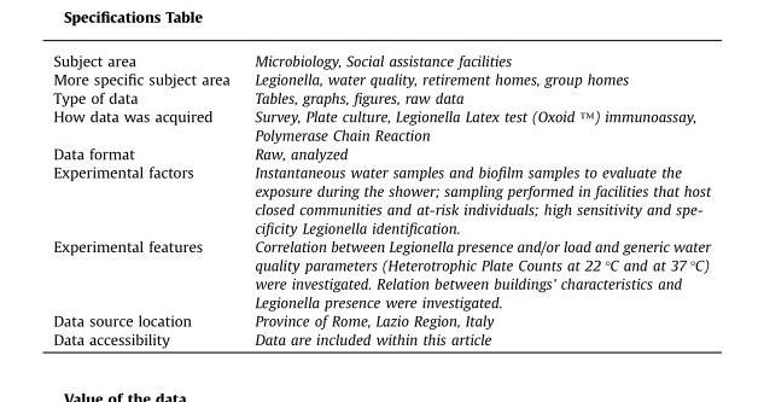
<table><tbody><tr><td>Subject area</td><td>Microbiology, Social assistance facilities</td></tr><tr><td>More specific subject area</td><td>Legionella, water quality, retirement homes, group homes</td></tr><tr><td>Type of data</td><td>Tables, graphs, figures, raw data</td></tr><tr><td>How data was acquired</td><td>Survey, Plate culture, Legionella Latex test (Oxoid ™) immunoassay, Polymerase Chain Reaction</td></tr><tr><td>Data format</td><td>Raw, analyzed</td></tr><tr><td>Experimental factors</td><td>Instantaneous water samples and biofilm samples to evaluate the exposure during the shower; sampling performed in facilities that host closed communities and at-risk individuals; high sensitivity and spe- cificity Legionella identification.</td></tr><tr><td>Experimental features</td><td>Correlation between Legionella presence and/or load and generic water quality parameters (Heterotrophic Plate Counts at 22 °C and at 37 °C) were investigated. Relation between buildings’ characteristics and Legionella presence were investigated.</td></tr><tr><td>Data source location</td><td>Province of Rome, Lazio Region, Italy</td></tr><tr><td>Data accessibility</td><td>Data are included within this article</td></tr></tbody></table>